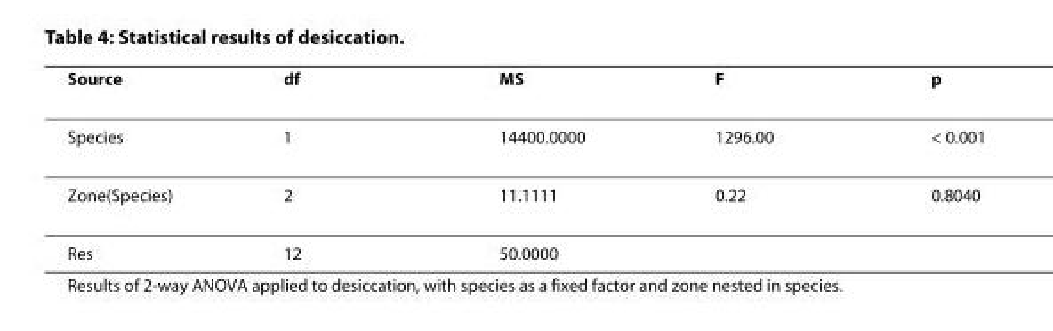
<table><thead><tr><td>Source</td><td>df</td><td>MS</td><td>F</td><td>p</td></tr></thead><tbody><tr><td>Species</td><td>1</td><td>14400.0000</td><td>1296.00</td><td>&lt; 0.001</td></tr><tr><td>Zone(Species)</td><td>2</td><td>11.1111</td><td>0.22</td><td>0.8040</td></tr><tr><td>Res</td><td>12</td><td>50.0000</td><td></td><td></td></tr></tbody></table>